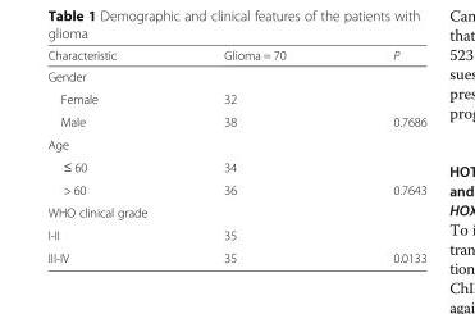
<table><thead><tr><td>Characteristic</td><td>Glioma = 70</td><td>P</td></tr></thead><tbody><tr><td colspan="3">Gender</td></tr><tr><td>Female</td><td>32</td><td></td></tr><tr><td>Male</td><td>38</td><td>0.7686</td></tr><tr><td colspan="3">Age</td></tr><tr><td>≤ 60</td><td>34</td><td></td></tr><tr><td>&gt; 60</td><td>36</td><td>0.7643</td></tr><tr><td colspan="3">WHO clinical grade</td></tr><tr><td>I-II</td><td>35</td><td></td></tr><tr><td>III-IV</td><td>35</td><td>0.0133</td></tr></tbody></table>